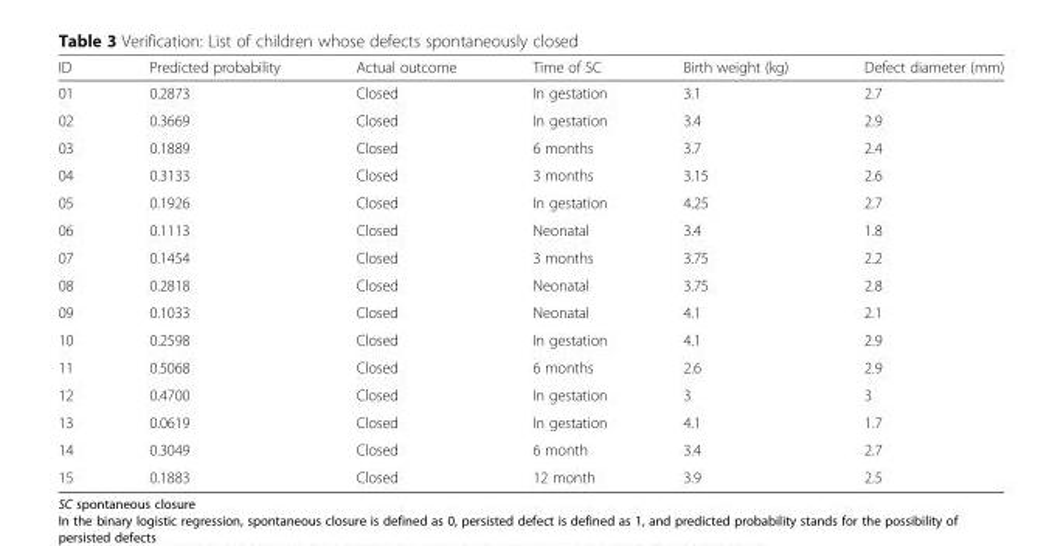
<table><thead><tr><td>ID</td><td>Predicted probability</td><td>Actual outcome</td><td>Time of SC</td><td>Birth weight (kg)</td><td>Defect diameter (mm)</td></tr></thead><tbody><tr><td>01</td><td>0.2873</td><td>Closed</td><td>In gestation</td><td>3.1</td><td>2.7</td></tr><tr><td>02</td><td>0.3669</td><td>Closed</td><td>In gestation</td><td>3.4</td><td>2.9</td></tr><tr><td>03</td><td>0.1889</td><td>Closed</td><td>6 months</td><td>3.7</td><td>2.4</td></tr><tr><td>04</td><td>0.3133</td><td>Closed</td><td>3 months</td><td>3.15</td><td>2.6</td></tr><tr><td>05</td><td>0.1926</td><td>Closed</td><td>In gestation</td><td>4.25</td><td>2.7</td></tr><tr><td>06</td><td>0.1113</td><td>Closed</td><td>Neonatal</td><td>3.4</td><td>1.8</td></tr><tr><td>07</td><td>0.1454</td><td>Closed</td><td>3 months</td><td>3.75</td><td>2.2</td></tr><tr><td>08</td><td>0.2818</td><td>Closed</td><td>Neonatal</td><td>3.75</td><td>2.8</td></tr><tr><td>09</td><td>0.1033</td><td>Closed</td><td>Neonatal</td><td>4.1</td><td>2.1</td></tr><tr><td>10</td><td>0.2598</td><td>Closed</td><td>In gestation</td><td>4.1</td><td>2.9</td></tr><tr><td>11</td><td>0.5068</td><td>Closed</td><td>6 months</td><td>2.6</td><td>2.9</td></tr><tr><td>12</td><td>0.4700</td><td>Closed</td><td>In gestation</td><td>3</td><td>3</td></tr><tr><td>13</td><td>0.0619</td><td>Closed</td><td>In gestation</td><td>4.1</td><td>1.7</td></tr><tr><td>14</td><td>0.3049</td><td>Closed</td><td>6 month</td><td>3.4</td><td>2.7</td></tr><tr><td>15</td><td>0.1883</td><td>Closed</td><td>12 month</td><td>3.9</td><td>2.5</td></tr></tbody></table>